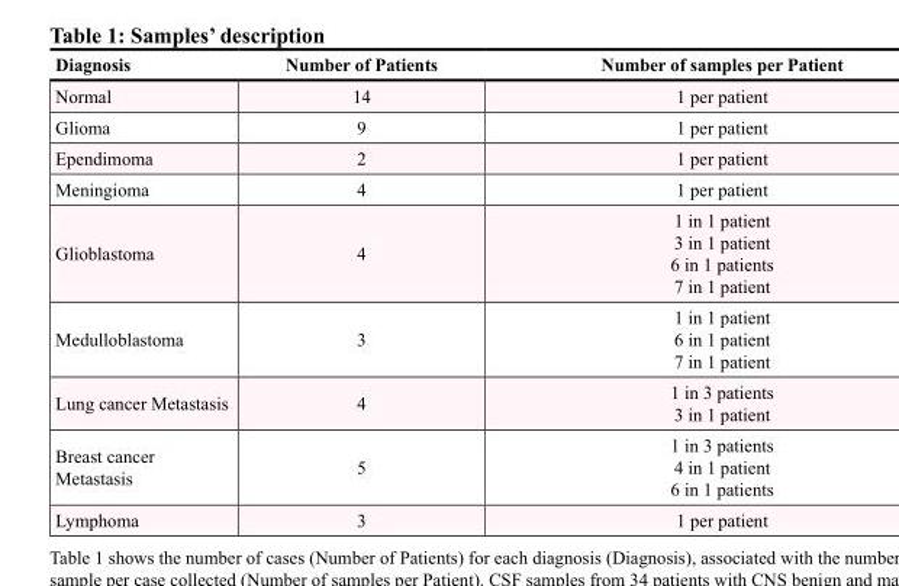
<table><thead><tr><td>Diagnosis</td><td>Number of Patients</td><td>Number of samples per Patient</td></tr></thead><tbody><tr><td>Normal</td><td>14</td><td>1 per patient</td></tr><tr><td>Glioma</td><td>9</td><td>1 per patient</td></tr><tr><td>Ependimoma</td><td>2</td><td>1 per patient</td></tr><tr><td>Meningioma</td><td>4</td><td>1 per patient</td></tr><tr><td>Glioblastoma</td><td>4</td><td>1 in 1 patient 3 in 1 patient 6 in 1 patients 7 in 1 patient</td></tr><tr><td>Medulloblastoma</td><td>3</td><td>1 in 1 patient 6 in 1 patient 7 in 1 patient</td></tr><tr><td>Lung cancer Metastasis</td><td>4</td><td>1 in 3 patients 3 in 1 patient</td></tr><tr><td>Breast cancer Metastasis</td><td>5</td><td>1 in 3 patients 4 in 1 patient 6 in 1 patients</td></tr><tr><td>Lymphoma</td><td>3</td><td>1 per patient</td></tr></tbody></table>